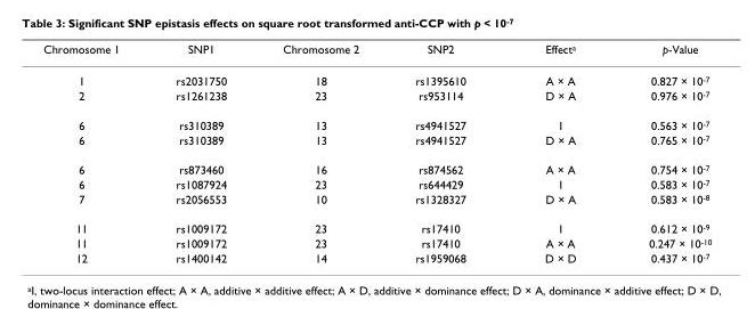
<table><thead><tr><td>Chromosome 1</td><td>SNP1</td><td>Chromosome 2</td><td>SNP2</td><td>Effect<sup>a</sup></td><td>p-Value</td></tr></thead><tbody><tr><td>1</td><td>rs2031750</td><td>18</td><td>rs1395610</td><td>A × A</td><td>0.827 × 10<sup>-7</sup></td></tr><tr><td>2</td><td>rs1261238</td><td>23</td><td>rs953114</td><td>D × A</td><td>0.976 × 10<sup>-7</sup></td></tr><tr><td>6</td><td>rs310389</td><td>13</td><td>rs4941527</td><td>I</td><td>0.563 × 10<sup>-7</sup></td></tr><tr><td>6</td><td>rs310389</td><td>13</td><td>rs4941527</td><td>D × A</td><td>0.765 × 10<sup>-7</sup></td></tr><tr><td>6</td><td>rs873460</td><td>16</td><td>rs874562</td><td>A × A</td><td>0.754 × 10<sup>-7</sup></td></tr><tr><td>6</td><td>rs1087924</td><td>23</td><td>rs644429</td><td>I</td><td>0.583 × 10<sup>-7</sup></td></tr><tr><td>7</td><td>rs2056553</td><td>10</td><td>rs1328327</td><td>D × A</td><td>0.583 × 10<sup>-8</sup></td></tr><tr><td>11</td><td>rs1009172</td><td>23</td><td>rs17410</td><td>I</td><td>0.612 × 10<sup>-9</sup></td></tr><tr><td>11</td><td>rs1009172</td><td>23</td><td>rs17410</td><td>A × A</td><td>0.247 × 10<sup>-10</sup></td></tr><tr><td>12</td><td>rs1400142</td><td>14</td><td>rs1959068</td><td>D × D</td><td>0.437 × 10<sup>-7</sup></td></tr></tbody></table>